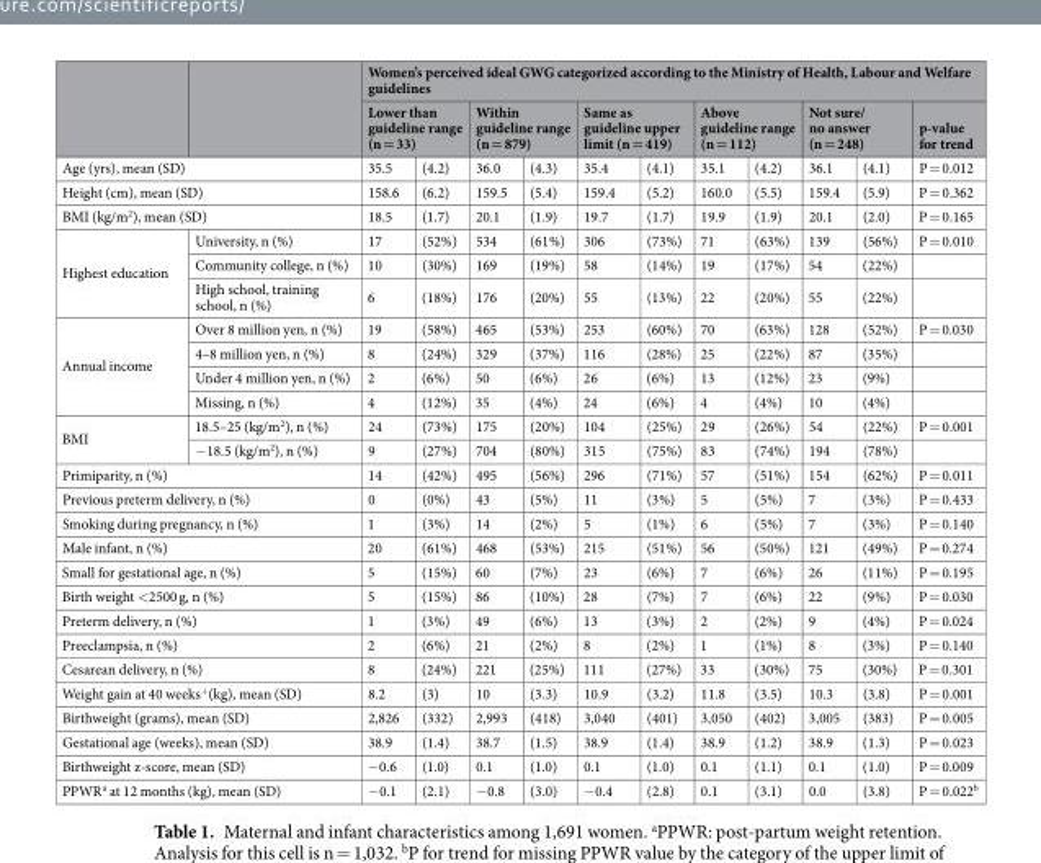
<table><thead><tr><td rowspan="2"></td><td rowspan="2"></td><td colspan="11">Women’s perceived ideal GWG categorized according to the Ministry of Health, Labour and Welfare guidelines</td></tr><tr><td colspan="2">Lower than guideline range (n = 33)</td><td colspan="2">Within guideline range (n = 879)</td><td colspan="2">Same as guideline upper limit (n = 419)</td><td colspan="2">Above guideline range (n = 112)</td><td colspan="2">Not sure/ no answer (n = 248)</td><td rowspan="2">p-value for trend P = 0.012</td></tr><tr><td colspan="2">Age (yrs), mean (SD)</td><td>35.5</td><td>(4.2)</td><td>36.0</td><td>(4.3)</td><td>35.4</td><td>(4.1)</td><td>35.1</td><td>(4.2)</td><td>36.1</td><td>(4.1)</td></tr></thead><tbody><tr><td colspan="2">Height (cm), mean (SD)</td><td>158.6</td><td>(6.2)</td><td>159.5</td><td>(5.4)</td><td>159.4</td><td>(5.2)</td><td>160.0</td><td>(5.5)</td><td>159.4</td><td>(5.9)</td><td>P = 0.362</td></tr><tr><td colspan="2">BMI (kg/m<sup>2</sup>), mean (SD)</td><td>18.5</td><td>(1.7)</td><td>20.1</td><td>(1.9)</td><td>19.7</td><td>(1.7)</td><td>19.9</td><td>(1.9)</td><td>20.1</td><td>(2.0)</td><td>P = 0.165</td></tr><tr><td rowspan="3">Highest education</td><td>University, n (%)</td><td>17</td><td>(52%)</td><td>534</td><td>(61%)</td><td>306</td><td>(73%)</td><td>71</td><td>(63%)</td><td>139</td><td>(56%)</td><td>P = 0.010</td></tr><tr><td>Community college, n (%)</td><td>10</td><td>(30%)</td><td>169</td><td>(19%)</td><td>58</td><td>(14%)</td><td>19</td><td>(17%)</td><td>54</td><td>(22%)</td><td></td></tr><tr><td>High school, training school, n (%)</td><td>6</td><td>(18%)</td><td>176</td><td>(20%)</td><td>55</td><td>(13%)</td><td>22</td><td>(20%)</td><td>55</td><td>(22%)</td><td></td></tr><tr><td rowspan="4">Annual income</td><td>Over 8 million yen, n (%)</td><td>19</td><td>(58%)</td><td>465</td><td>(53%)</td><td>253</td><td>(60%)</td><td>70</td><td>(63%)</td><td>128</td><td>(52%)</td><td>P = 0.030</td></tr><tr><td>4–8 million yen, n (%)</td><td>8</td><td>(24%)</td><td>329</td><td>(37%)</td><td>116</td><td>(28%)</td><td>25</td><td>(22%)</td><td>87</td><td>(35%)</td><td></td></tr><tr><td>Under 4 million yen, n (%)</td><td>2</td><td>(6%)</td><td>50</td><td>(6%)</td><td>26</td><td>(6%)</td><td>13</td><td>(12%)</td><td>23</td><td>(9%)</td><td></td></tr><tr><td>Missing, n (%)</td><td>4</td><td>(12%)</td><td>35</td><td>(4%)</td><td>24</td><td>(6%)</td><td>4</td><td>(4%)</td><td>10</td><td>(4%)</td><td></td></tr><tr><td rowspan="2">BMI</td><td>18.5–25 (kg/m<sup>2</sup>), n (%)</td><td>24</td><td>(73%)</td><td>175</td><td>(20%)</td><td>104</td><td>(25%)</td><td>29</td><td>(26%)</td><td>54</td><td>(22%)</td><td>P = 0.001</td></tr><tr><td>−18.5 (kg/m<sup>2</sup>), n (%)</td><td>9</td><td>(27%)</td><td>704</td><td>(80%)</td><td>315</td><td>(75%)</td><td>83</td><td>(74%)</td><td>194</td><td>(78%)</td><td></td></tr><tr><td colspan="2">Primiparity, n (%)</td><td>14</td><td>(42%)</td><td>495</td><td>(56%)</td><td>296</td><td>(71%)</td><td>57</td><td>(51%)</td><td>154</td><td>(62%)</td><td>P = 0.011</td></tr><tr><td colspan="2">Previous preterm delivery, n (%)</td><td>0</td><td>(0%)</td><td>43</td><td>(5%)</td><td>11</td><td>(3%)</td><td>5</td><td>(5%)</td><td>7</td><td>(3%)</td><td>P = 0.433</td></tr><tr><td colspan="2">Smoking during pregnancy, n (%)</td><td>1</td><td>(3%)</td><td>14</td><td>(2%)</td><td>5</td><td>(1%)</td><td>6</td><td>(5%)</td><td>7</td><td>(3%)</td><td>P = 0.140</td></tr><tr><td colspan="2">Male infant, n (%)</td><td>20</td><td>(61%)</td><td>468</td><td>(53%)</td><td>215</td><td>(51%)</td><td>56</td><td>(50%)</td><td>121</td><td>(49%)</td><td>P = 0.274</td></tr><tr><td colspan="2">Small for gestational age, n (%)</td><td>5</td><td>(15%)</td><td>60</td><td>(7%)</td><td>23</td><td>(6%)</td><td>7</td><td>(6%)</td><td>26</td><td>(11%)</td><td>P = 0.195</td></tr><tr><td colspan="2">Birth weight &lt;2500 g, n (%)</td><td>5</td><td>(15%)</td><td>86</td><td>(10%)</td><td>28</td><td>(7%)</td><td>7</td><td>(6%)</td><td>22</td><td>(9%)</td><td>P = 0.030</td></tr><tr><td colspan="2">Preterm delivery, n (%)</td><td>1</td><td>(3%)</td><td>49</td><td>(6%)</td><td>13</td><td>(3%)</td><td>2</td><td>(2%)</td><td>9</td><td>(4%)</td><td>P = 0.024</td></tr><tr><td colspan="2">Preeclampsia, n (%)</td><td>2</td><td>(6%)</td><td>21</td><td>(2%)</td><td>8</td><td>(2%)</td><td>1</td><td>(1%)</td><td>8</td><td>(3%)</td><td>P = 0.140</td></tr><tr><td colspan="2">Cesarean delivery, n (%)</td><td>8</td><td>(24%)</td><td>221</td><td>(25%)</td><td>111</td><td>(27%)</td><td>33</td><td>(30%)</td><td>75</td><td>(30%)</td><td>P = 0.301</td></tr><tr><td colspan="2">Weight gain at 40 weeks<sup>+</sup>(kg), mean (SD)</td><td>8.2</td><td>(3)</td><td>10</td><td>(3.3)</td><td>10.9</td><td>(3.2)</td><td>11.8</td><td>(3.5)</td><td>10.3</td><td>(3.8)</td><td>P = 0.001</td></tr><tr><td colspan="2">Birthweight (grams), mean (SD)</td><td>2,826</td><td>(332)</td><td>2,993</td><td>(418)</td><td>3,040</td><td>(401)</td><td>3,050</td><td>(402)</td><td>3,005</td><td>(383)</td><td>P = 0.005</td></tr><tr><td colspan="2">Gestational age (weeks), mean (SD)</td><td>38.9</td><td>(1.4)</td><td>38.7</td><td>(1.5)</td><td>38.9</td><td>(1.4)</td><td>38.9</td><td>(1.2)</td><td>38.9</td><td>(1.3)</td><td>P = 0.023</td></tr><tr><td colspan="2">Birthweight z-score, mean (SD)</td><td>−0.6</td><td>(1.0)</td><td>0.1</td><td>(1.0)</td><td>0.1</td><td>(1.0)</td><td>0.1</td><td>(1.1)</td><td>0.1</td><td>(1.0)</td><td>P = 0.009</td></tr><tr><td colspan="2">PPWR<sup>a</sup> at 12 months (kg), mean (SD)</td><td>−0.1</td><td>(2.1)</td><td>−0.8</td><td>(3.0)</td><td>−0.4</td><td>(2.8)</td><td>0.1</td><td>(3.1)</td><td>0.0</td><td>(3.8)</td><td>P = 0.022<sup>b</sup></td></tr></tbody></table>